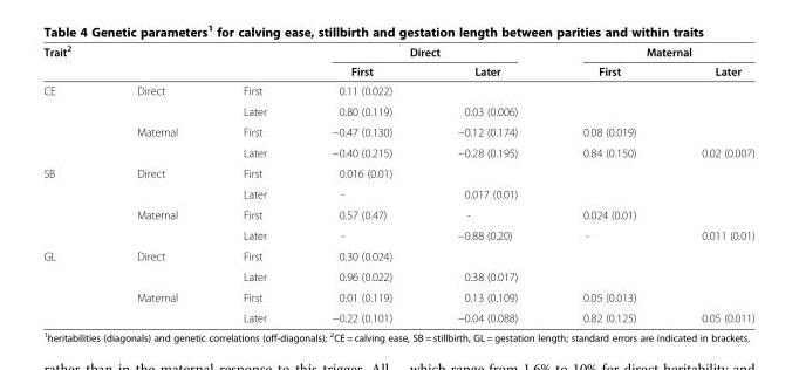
<table><thead><tr><td rowspan="2">Trait<sup>2</sup></td><td rowspan="2"></td><td rowspan="2"></td><td colspan="2">Direct</td><td colspan="2">Maternal</td></tr><tr><td>First</td><td>Later</td><td>First</td><td>Later</td></tr></thead><tbody><tr><td rowspan="4">CE</td><td>Direct</td><td>First</td><td>0.11 (0.022)</td><td></td><td></td><td></td></tr><tr><td></td><td>Later</td><td>0.80 (0.119)</td><td>0.03 (0.006)</td><td></td><td></td></tr><tr><td>Maternal</td><td>First</td><td>−0.47 (0.130)</td><td>−0.12 (0.174)</td><td>0.08 (0.019)</td><td></td></tr><tr><td></td><td>Later</td><td>−0.40 (0.215)</td><td>−0.28 (0.195)</td><td>0.84 (0.150)</td><td>0.02 (0.007)</td></tr><tr><td rowspan="4">SB</td><td>Direct</td><td>First</td><td>0.016 (0.01)</td><td></td><td></td><td></td></tr><tr><td></td><td>Later</td><td>-</td><td>0.017 (0.01)</td><td></td><td></td></tr><tr><td>Maternal</td><td>First</td><td>0.57 (0.47)</td><td>-</td><td>0.024 (0.01)</td><td></td></tr><tr><td></td><td>Later</td><td>-</td><td>−0.88 (0.20)</td><td>-</td><td>0.011 (0.01)</td></tr><tr><td rowspan="4">GL</td><td>Direct</td><td>First</td><td>0.30 (0.024)</td><td></td><td></td><td></td></tr><tr><td></td><td>Later</td><td>0.96 (0.022)</td><td>0.38 (0.017)</td><td></td><td></td></tr><tr><td>Maternal</td><td>First</td><td>0.01 (0.119)</td><td>0.13 (0.109)</td><td>0.05 (0.013)</td><td></td></tr><tr><td></td><td>Later</td><td>−0.22 (0.101)</td><td>−0.04 (0.088)</td><td>0.82 (0.125)</td><td>0.05 (0.011)</td></tr></tbody></table>